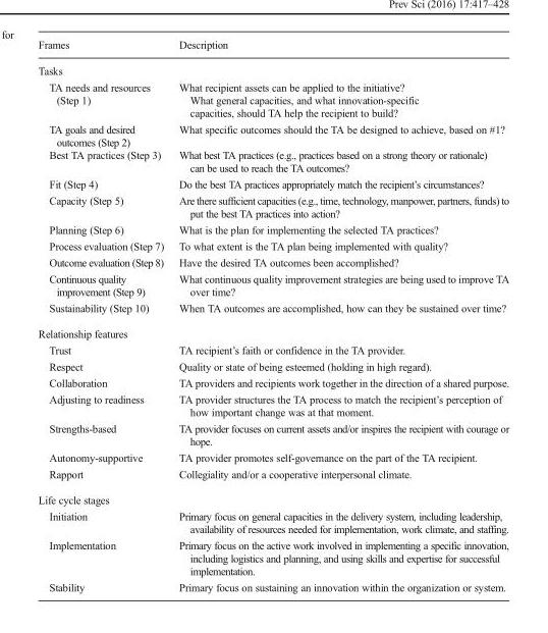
<table><thead><tr><td>Frames</td><td>Description</td></tr></thead><tbody><tr><td colspan="2">Tasks</td></tr><tr><td>TA needs and resources (Step 1)</td><td>What recipient assets can be applied to the initiative? What general capacities, and what innovation-specific capacities, should TA help the recipient to build?</td></tr><tr><td>TA goals and desired outcomes (Step 2)</td><td>What specific outcomes should the TA be designed to achieve, based on #1?</td></tr><tr><td>Best TA practices (Step 3)</td><td>What best TA practices (e.g., practices based on a strong theory or rationale) can be used to reach the TA outcomes?</td></tr><tr><td>Fit (Step 4)</td><td>Do the best TA practices appropriately match the recipient’s circumstances?</td></tr><tr><td>Capacity (Step 5)</td><td>Are there sufficient capacities (e.g., time, technology, manpower, partners, funds) to put the best TA practices into action?</td></tr><tr><td>Planning (Step 6)</td><td>What is the plan for implementing the selected TA practices?</td></tr><tr><td>Process evaluation (Step 7)</td><td>To what extent is the TA plan being implemented with quality?</td></tr><tr><td>Outcome evaluation (Step 8)</td><td>Have the desired TA outcomes been accomplished?</td></tr><tr><td>Continuous quality improvement (Step 9)</td><td>What continuous quality improvement strategies are being used to improve TA over time?</td></tr><tr><td>Sustainability (Step 10)</td><td>When TA outcomes are accomplished, how can they be sustained over time?</td></tr><tr><td colspan="2">Relationship features</td></tr><tr><td>Trust</td><td>TA recipient’s faith or confidence in the TA provider.</td></tr><tr><td>Respect</td><td>Quality or state of being esteemed (holding in high regard).</td></tr><tr><td>Collaboration</td><td>TA providers and recipients work together in the direction of a shared purpose.</td></tr><tr><td>Adjusting to readiness</td><td>TA provider structures the TA process to match the recipient’s perception of how important change was at that moment.</td></tr><tr><td>Strengths-based</td><td>TA provider focuses on current assets and/or inspires the recipient with courage or hope.</td></tr><tr><td>Autonomy-supportive</td><td>TA provider promotes self-governance on the part of the TA recipient.</td></tr><tr><td>Rapport</td><td>Collegiality and/or a cooperative interpersonal climate.</td></tr><tr><td colspan="2">Life cycle stages</td></tr><tr><td>Initiation</td><td>Primary focus on general capacities in the delivery system, including leadership, availability of resources needed for implementation, work climate, and staffing.</td></tr><tr><td>Implementation</td><td>Primary focus on the active work involved in implementing a specific innovation, including logistics and planning, and using skills and expertise for successful implementation.</td></tr><tr><td>Stability</td><td>Primary focus on sustaining an innovation within the organization or system.</td></tr></tbody></table>